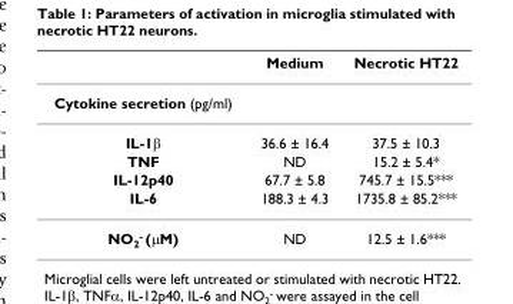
<table><thead><tr><td></td><td>Medium</td><td>Necrotic HT22</td></tr></thead><tbody><tr><td colspan="3">Cytokine secretion (pg/ml)</td></tr><tr><td>IL-1β</td><td>36.6 ± 16.4</td><td>37.5 ± 10.3</td></tr><tr><td>TNF</td><td>ND</td><td>15.2 ± 5.4*</td></tr><tr><td>IL-12p40</td><td>67.7 ± 5.8</td><td>745.7 ± 15.5***</td></tr><tr><td>IL-6</td><td>188.3 ± 4.3</td><td>1735.8 ± 85.2***</td></tr><tr><td>NO<sub>2</sub><sup>-</sup> (μM)</td><td>ND</td><td>12.5 ± 1.6***</td></tr></tbody></table>